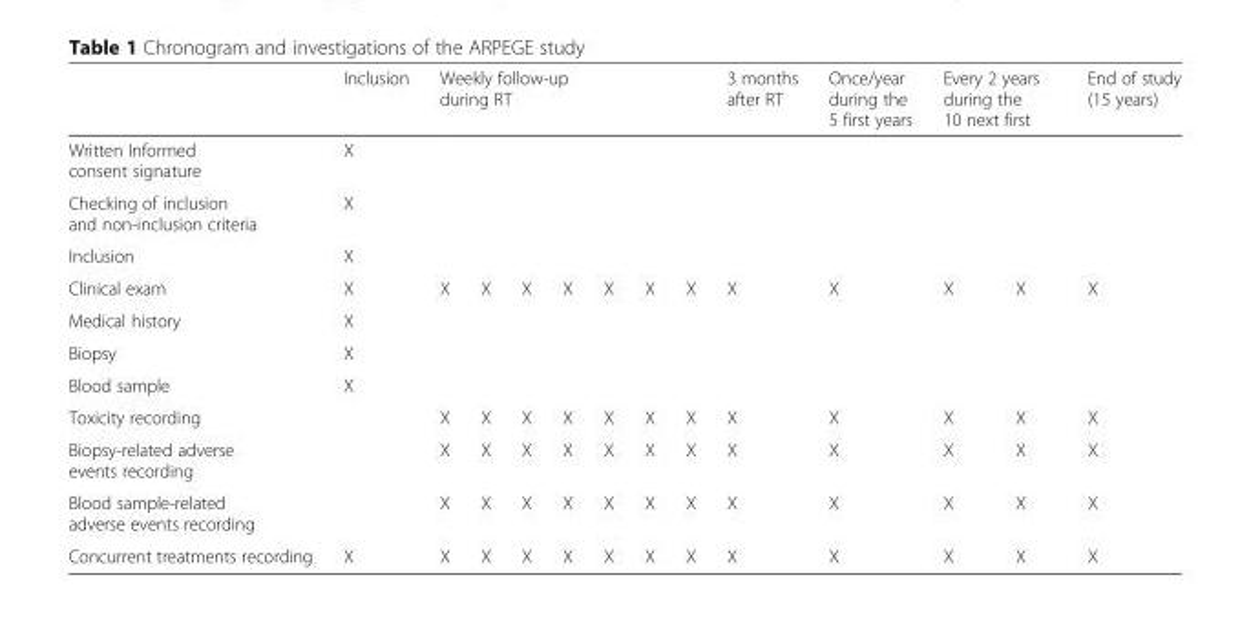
<table><thead><tr><td rowspan="2">Written Informed consent signature</td><td rowspan="2">Inclusion X</td><td colspan="7">Weekly follow-up during RT</td><td rowspan="2">3 months after RT</td><td rowspan="2">Once/year during the 5 first years</td><td colspan="2">Every 2 years during the 10 next first</td><td rowspan="2">End of study (15 years)</td></tr><tr><td></td><td></td><td></td><td></td><td></td><td></td><td></td><td></td><td></td></tr></thead><tbody><tr><td>Checking of inclusion and non-inclusion criteria</td><td>X</td><td></td><td></td><td></td><td></td><td></td><td></td><td></td><td></td><td></td><td></td><td></td><td></td></tr><tr><td>Inclusion</td><td>X</td><td></td><td></td><td></td><td></td><td></td><td></td><td></td><td></td><td></td><td></td><td></td><td></td></tr><tr><td>Clinical exam</td><td>X</td><td>X</td><td>X</td><td>X</td><td>X</td><td>X</td><td>X</td><td>X</td><td>X</td><td>X</td><td>X</td><td>X</td><td>X</td></tr><tr><td>Medical history</td><td>X</td><td></td><td></td><td></td><td></td><td></td><td></td><td></td><td></td><td></td><td></td><td></td><td></td></tr><tr><td>Biopsy</td><td>X</td><td></td><td></td><td></td><td></td><td></td><td></td><td></td><td></td><td></td><td></td><td></td><td></td></tr><tr><td>Blood sample</td><td>X</td><td></td><td></td><td></td><td></td><td></td><td></td><td></td><td></td><td></td><td></td><td></td><td></td></tr><tr><td>Toxicity recording</td><td></td><td>X</td><td>X</td><td>X</td><td>X</td><td>X</td><td>X</td><td>X</td><td>X</td><td>X</td><td>X</td><td>X</td><td>X</td></tr><tr><td>Biopsy-related adverse events recording</td><td></td><td>X</td><td>X</td><td>X</td><td>X</td><td>X</td><td>X</td><td>X</td><td>X</td><td>X</td><td>X</td><td>X</td><td>X</td></tr><tr><td>Blood sample-related adverse events recording</td><td></td><td>X</td><td>X</td><td>X</td><td>X</td><td>X</td><td>X</td><td>X</td><td>X</td><td>X</td><td>X</td><td>X</td><td>X</td></tr><tr><td>Concurrent treatments recording</td><td>X</td><td>X</td><td>X</td><td>X</td><td>X</td><td>X</td><td>X</td><td>X</td><td>X</td><td>X</td><td>X</td><td>X</td><td>X</td></tr></tbody></table>